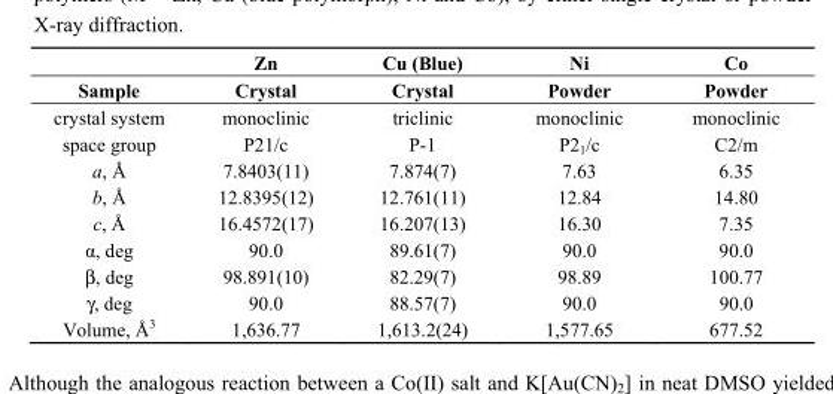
<table><thead><tr><td rowspan="2">Sample</td><td rowspan="2">Zn Crystal</td><td rowspan="2">Cu (Blue) Crystal</td><td rowspan="2">Ni Powder</td><td rowspan="2">Co Powder</td></tr><tr></tr></thead><tbody><tr><td>crystal system</td><td>monoclinic</td><td>triclinic</td><td>monoclinic</td><td>monoclinic</td></tr><tr><td>space group</td><td>P21/c</td><td>P-1</td><td>P2<sub>1</sub>/c</td><td>C2/m</td></tr><tr><td>a, Å</td><td>7.8403(11)</td><td>7.874(7)</td><td>7.63</td><td>6.35</td></tr><tr><td>b, Å</td><td>12.8395(12)</td><td>12.761(11)</td><td>12.84</td><td>14.80</td></tr><tr><td>c, Å</td><td>16.4572(17)</td><td>16.207(13)</td><td>16.30</td><td>7.35</td></tr><tr><td>α, deg</td><td>90.0</td><td>89.61(7)</td><td>90.0</td><td>90.0</td></tr><tr><td>β, deg</td><td>98.891(10)</td><td>82.29(7)</td><td>98.89</td><td>100.77</td></tr><tr><td>γ, deg</td><td>90.0</td><td>88.57(7)</td><td>90.0</td><td>90.0</td></tr><tr><td>Volume, Å<sup>3</sup></td><td>1,636.77</td><td>1,613.2(24)</td><td>1,577.65</td><td>677.52</td></tr></tbody></table>